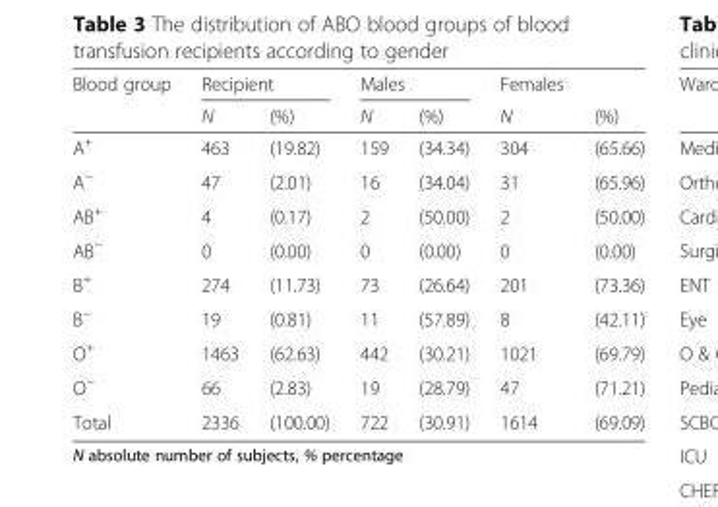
<table><thead><tr><td rowspan="2">Blood group</td><td colspan="2">Recipient</td><td colspan="2">Males</td><td rowspan="2">Females N</td><td rowspan="2">(%)</td></tr><tr><td>N</td><td>(%)</td><td>N</td><td>(%)</td></tr></thead><tbody><tr><td>A<sup>+</sup></td><td>463</td><td>(19.82)</td><td>159</td><td>(34.34)</td><td>304</td><td>(65.66)</td></tr><tr><td>A<sup>−</sup></td><td>47</td><td>(2.01)</td><td>16</td><td>(34.04)</td><td>31</td><td>(65.96)</td></tr><tr><td>AB<sup>+</sup></td><td>4</td><td>(0.17)</td><td>2</td><td>(50.00)</td><td>2</td><td>(50.00)</td></tr><tr><td>AB<sup>−</sup></td><td>0</td><td>(0.00)</td><td>0</td><td>(0.00)</td><td>0</td><td>(0.00)</td></tr><tr><td>B<sup>+</sup></td><td>274</td><td>(11.73)</td><td>73</td><td>(26.64)</td><td>201</td><td>(73.36)</td></tr><tr><td>B<sup>−</sup></td><td>19</td><td>(0.81)</td><td>11</td><td>(57.89)</td><td>8</td><td>(42.11)</td></tr><tr><td>O<sup>+</sup></td><td>1463</td><td>(62.63)</td><td>442</td><td>(30.21)</td><td>1021</td><td>(69.79)</td></tr><tr><td>O<sup>−</sup></td><td>66</td><td>(2.83)</td><td>19</td><td>(28.79)</td><td>47</td><td>(71.21)</td></tr><tr><td>Total</td><td>2336</td><td>(100.00)</td><td>722</td><td>(30.91)</td><td>1614</td><td>(69.09)</td></tr></tbody></table>